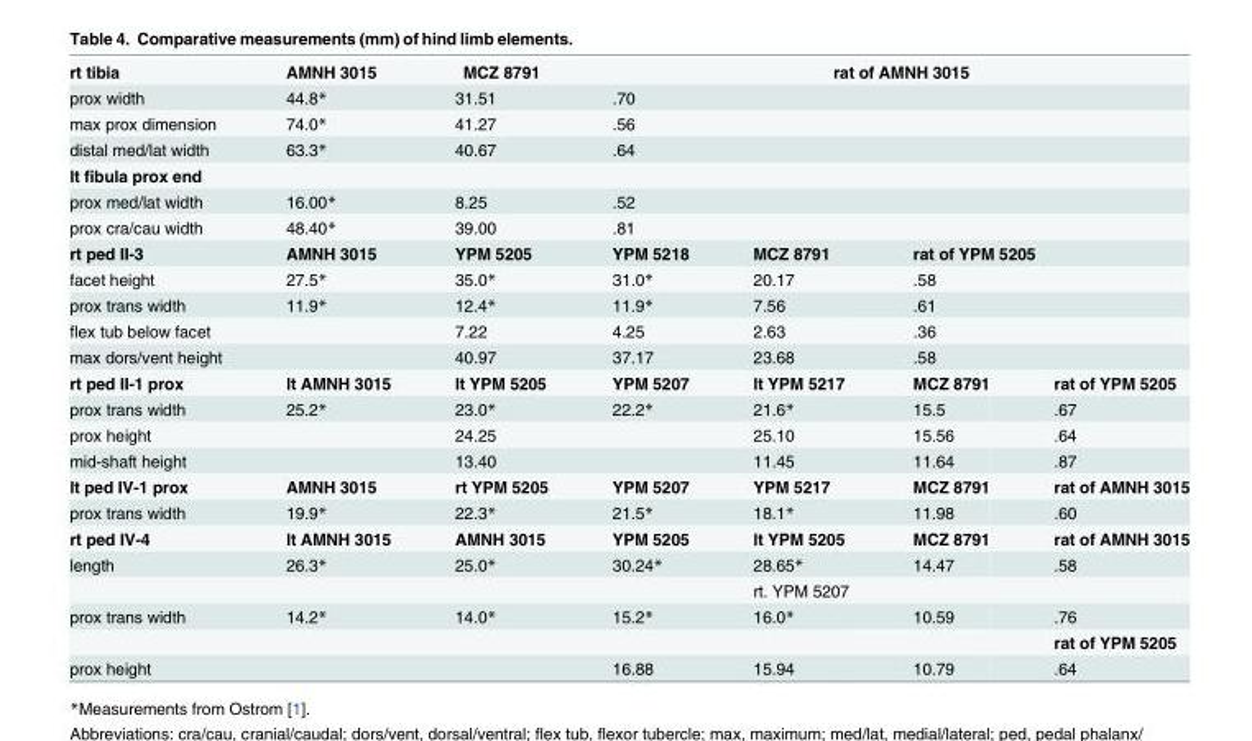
<table><tbody><tr><td>rt tibia</td><td>AMNH 3015</td><td>MCZ 8791</td><td colspan="4">rat of AMNH 3015</td></tr><tr><td>prox width</td><td>44.8*</td><td>31.51</td><td colspan="4">.70</td></tr><tr><td>max prox dimension</td><td>74.0*</td><td>41.27</td><td colspan="4">.56</td></tr><tr><td>distal med/lat width</td><td>63.3*</td><td>40.67</td><td colspan="4">.64</td></tr><tr><td colspan="7">lt fibula prox end</td></tr><tr><td>prox med/lat width</td><td>16.00*</td><td>8.25</td><td colspan="4">.52</td></tr><tr><td>prox cra/cau width</td><td>48.40*</td><td>39.00</td><td colspan="4">.81</td></tr><tr><td>rt ped II-3</td><td>AMNH 3015</td><td>YPM 5205</td><td>YPM 5218</td><td>MCZ 8791</td><td colspan="2">rat of YPM 5205</td></tr><tr><td>facet height</td><td>27.5*</td><td>35.0*</td><td>31.0*</td><td>20.17</td><td colspan="2">.58</td></tr><tr><td>prox trans width</td><td>11.9*</td><td>12.4*</td><td>11.9*</td><td>7.56</td><td colspan="2">.61</td></tr><tr><td>flex tub below facet</td><td></td><td>7.22</td><td>4.25</td><td>2.63</td><td colspan="2">.36</td></tr><tr><td>max dors/vent height</td><td></td><td>40.97</td><td>37.17</td><td>23.68</td><td colspan="2">.58</td></tr><tr><td>rt ped II-1 prox</td><td>lt AMNH 3015</td><td>lt YPM 5205</td><td>YPM 5207</td><td>lt YPM 5217</td><td>MCZ 8791</td><td>rat of YPM 5205</td></tr><tr><td>prox trans width</td><td>25.2*</td><td>23.0*</td><td>22.2*</td><td>21.6*</td><td>15.5</td><td>.67</td></tr><tr><td>prox height</td><td></td><td>24.25</td><td></td><td>25.10</td><td>15.56</td><td>.64</td></tr><tr><td>mid-shaft height</td><td></td><td>13.40</td><td></td><td>11.45</td><td>11.64</td><td>.87</td></tr><tr><td>lt ped IV-1 prox</td><td>AMNH 3015</td><td>rt YPM 5205</td><td>YPM 5207</td><td>YPM 5217</td><td>MCZ 8791</td><td>rat of AMNH 3015</td></tr><tr><td>prox trans width</td><td>19.9*</td><td>22.3*</td><td>21.5*</td><td>18.1*</td><td>11.98</td><td>.60</td></tr><tr><td>rt ped IV-4</td><td>lt AMNH 3015</td><td>AMNH 3015</td><td>YPM 5205</td><td>lt YPM 5205</td><td>MCZ 8791</td><td>rat of AMNH 3015</td></tr><tr><td rowspan="2">length</td><td>26.3*</td><td>25.0*</td><td>30.24*</td><td>28.65*</td><td>14.47</td><td>.58</td></tr><tr><td></td><td></td><td></td><td>rt. YPM 5207</td><td></td><td></td></tr><tr><td rowspan="2">prox trans width</td><td>14.2*</td><td>14.0*</td><td>15.2*</td><td>16.0*</td><td>10.59</td><td>.76</td></tr><tr><td></td><td></td><td></td><td></td><td></td><td>rat of YPM 5205</td></tr><tr><td>prox height</td><td></td><td></td><td>16.88</td><td>15.94</td><td>10.79</td><td>.64</td></tr></tbody></table>